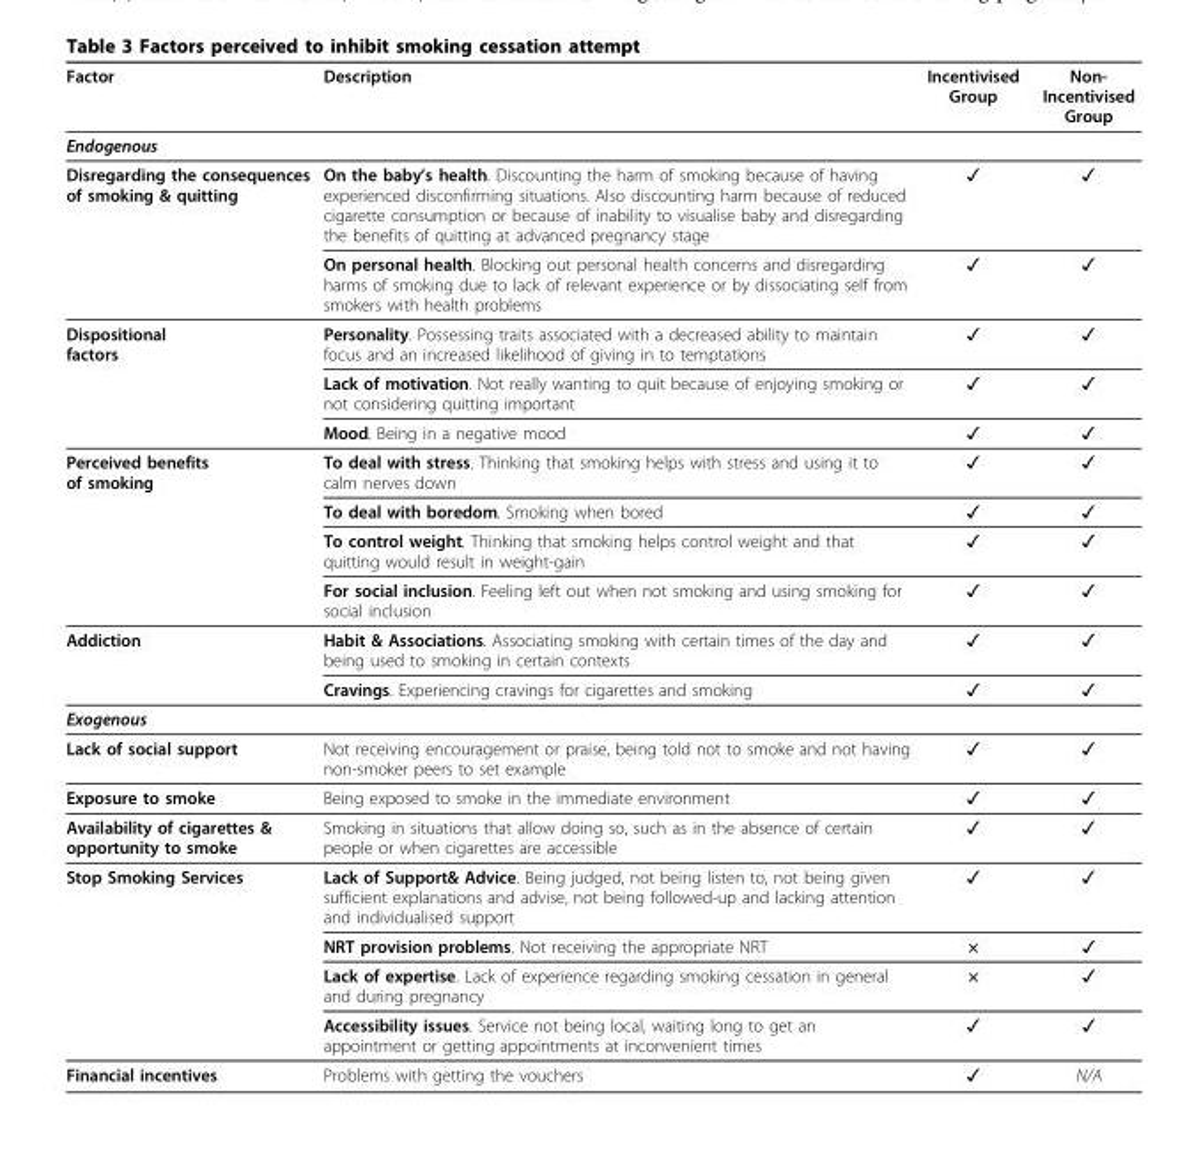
<table><thead><tr><td>Factor</td><td>Description</td><td>Incentivised Group</td><td>Non- Incentivised Group</td></tr></thead><tbody><tr><td colspan="4">Endogenous</td></tr><tr><td rowspan="2">Disregarding the consequences of smoking &amp; quitting</td><td>On the baby’s health. Discounting the harm of smoking because of having experienced disconfirming situations. Also discounting harm because of reduced cigarette consumption or because of inability to visualise baby and disregarding the benefits of quitting at advanced pregnancy stage</td><td>✓</td><td>✓</td></tr><tr><td>On personal health. Blocking out personal health concerns and disregarding harms of smoking due to lack of relevant experience or by dissociating self from smokers with health problems</td><td>✓</td><td>✓</td></tr><tr><td rowspan="3">Dispositional factors</td><td>Personality. Possessing traits associated with a decreased ability to maintain focus and an increased likelihood of giving in to temptations</td><td>✓</td><td>✓</td></tr><tr><td>Lack of motivation. Not really wanting to quit because of enjoying smoking or not considering quitting important</td><td>✓</td><td>✓</td></tr><tr><td>Mood. Being in a negative mood</td><td>✓</td><td>✓</td></tr><tr><td rowspan="4">Perceived benefits of smoking</td><td>To deal with stress. Thinking that smoking helps with stress and using it to calm nerves down</td><td>✓</td><td>✓</td></tr><tr><td>To deal with boredom. Smoking when bored</td><td>✓</td><td>✓</td></tr><tr><td>To control weight. Thinking that smoking helps control weight and that quitting would result in weight-gain</td><td>✓</td><td>✓</td></tr><tr><td>For social inclusion. Feeling left out when not smoking and using smoking for social inclusion</td><td>✓</td><td>✓</td></tr><tr><td rowspan="2">Addiction</td><td>Habit &amp; Associations. Associating smoking with certain times of the day and being used to smoking in certain contexts</td><td>✓</td><td>✓</td></tr><tr><td>Cravings. Experiencing cravings for cigarettes and smoking</td><td>✓</td><td>✓</td></tr><tr><td colspan="4">Exogenous</td></tr><tr><td>Lack of social support</td><td>Not receiving encouragement or praise, being told not to smoke and not having non-smoker peers to set example</td><td>✓</td><td>✓</td></tr><tr><td>Exposure to smoke</td><td>Being exposed to smoke in the immediate environment</td><td>✓</td><td>✓</td></tr><tr><td>Availability of cigarettes &amp; opportunity to smoke</td><td>Smoking in situations that allow doing so, such as in the absence of certain people or when cigarettes are accessible</td><td>✓</td><td>✓</td></tr><tr><td rowspan="4">Stop Smoking Services</td><td>Lack of Support&amp; Advice. Being judged, not being listen to, not being given sufficient explanations and advise, not being followed-up and lacking attention and individualised support</td><td>✓</td><td>✓</td></tr><tr><td>NRT provision problems. Not receiving the appropriate NRT</td><td>×</td><td>✓</td></tr><tr><td>Lack of expertise. Lack of experience regarding smoking cessation in general and during pregnancy</td><td>×</td><td>✓</td></tr><tr><td>Accessibility issues. Service not being local, waiting long to get an appointment or getting appointments at inconvenient times</td><td>✓</td><td>✓</td></tr><tr><td>Financial incentives</td><td>Problems with getting the vouchers</td><td>✓</td><td>N/A</td></tr></tbody></table>